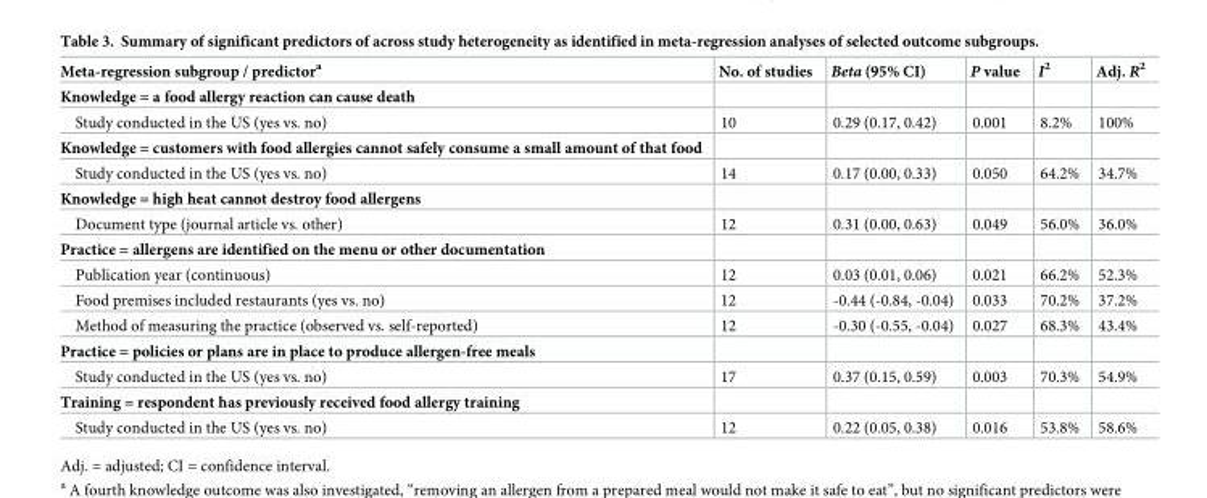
<table><thead><tr><td>Meta-regression subgroup / predictor<sup>a</sup></td><td>No. of studies</td><td>Beta (95% CI)</td><td>P value</td><td>I<sup>2</sup></td><td>Adj. R<sup>2</sup></td></tr></thead><tbody><tr><td colspan="6">Knowledge = a food allergy reaction can cause death</td></tr><tr><td>Study conducted in the US (yes vs. no)</td><td>10</td><td>0.29 (0.17, 0.42)</td><td>0.001</td><td>8.2%</td><td>100%</td></tr><tr><td colspan="6">Knowledge = customers with food allergies cannot safely consume a small amount of that food</td></tr><tr><td>Study conducted in the US (yes vs. no)</td><td>14</td><td>0.17 (0.00, 0.33)</td><td>0.050</td><td>64.2%</td><td>34.7%</td></tr><tr><td colspan="6">Knowledge = high heat cannot destroy food allergens</td></tr><tr><td>Document type (journal article vs. other)</td><td>12</td><td>0.31 (0.00, 0.63)</td><td>0.049</td><td>56.0%</td><td>36.0%</td></tr><tr><td colspan="6">Practice = allergens are identified on the menu or other documentation</td></tr><tr><td>Publication year (continuous)</td><td>12</td><td>0.03 (0.01, 0.06)</td><td>0.021</td><td>66.2%</td><td>52.3%</td></tr><tr><td>Food premises included restaurants (yes vs. no)</td><td>12</td><td>-0.44 (-0.84, -0.04)</td><td>0.033</td><td>70.2%</td><td>37.2%</td></tr><tr><td>Method of measuring the practice (observed vs. self-reported)</td><td>12</td><td>-0.30 (-0.55, -0.04)</td><td>0.027</td><td>68.3%</td><td>43.4%</td></tr><tr><td colspan="6">Practice = policies or plans are in place to produce allergen-free meals</td></tr><tr><td>Study conducted in the US (yes vs. no)</td><td>17</td><td>0.37 (0.15, 0.59)</td><td>0.003</td><td>70.3%</td><td>54.9%</td></tr><tr><td colspan="6">Training = respondent has previously received food allergy training</td></tr><tr><td>Study conducted in the US (yes vs. no)</td><td>12</td><td>0.22 (0.05, 0.38)</td><td>0.016</td><td>53.8%</td><td>58.6%</td></tr></tbody></table>